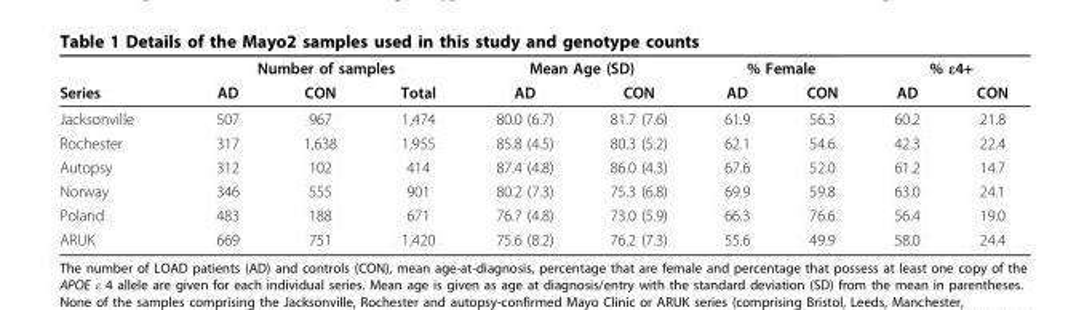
<table><thead><tr><td rowspan="2">Series</td><td colspan="3">Number of samples</td><td colspan="2">Mean Age (SD)</td><td colspan="2">% Female</td><td colspan="2">% ε4+</td></tr><tr><td>AD</td><td>CON</td><td>Total</td><td>AD</td><td>CON</td><td>AD</td><td>CON</td><td>AD</td><td>CON</td></tr></thead><tbody><tr><td>Jacksonville</td><td>507</td><td>967</td><td>1,474</td><td>80.0 (6.7)</td><td>81.7 (7.6)</td><td>61.9</td><td>56.3</td><td>60.2</td><td>21.8</td></tr><tr><td>Rochester</td><td>317</td><td>1,638</td><td>1,955</td><td>85.8 (4.5)</td><td>80.3 (5.2)</td><td>62.1</td><td>54.6</td><td>42.3</td><td>22.4</td></tr><tr><td>Autopsy</td><td>312</td><td>102</td><td>414</td><td>87.4 (4.8)</td><td>86.0 (4.3)</td><td>67.6</td><td>52.0</td><td>61.2</td><td>14.7</td></tr><tr><td>Norway</td><td>346</td><td>555</td><td>901</td><td>80.2 (7.3)</td><td>75.3 (6.8)</td><td>69.9</td><td>59.8</td><td>63.0</td><td>24.1</td></tr><tr><td>Poland</td><td>483</td><td>188</td><td>671</td><td>76.7 (4.8)</td><td>73.0 (5.9)</td><td>66.3</td><td>76.6</td><td>56.4</td><td>19.0</td></tr><tr><td>ARUK</td><td>669</td><td>751</td><td>1,420</td><td>75.6 (8.2)</td><td>76.2 (7.3)</td><td>55.6</td><td>49.9</td><td>58.0</td><td>24.4</td></tr></tbody></table>